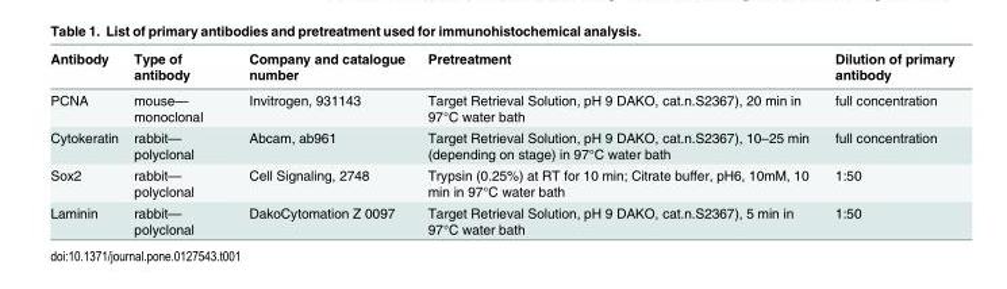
<table><thead><tr><td>Antibody</td><td>Type of antibody</td><td>Company and catalogue number</td><td>Pretreatment</td><td>Dilution of primary antibody</td></tr></thead><tbody><tr><td>PCNA</td><td>mouse— monoclonal</td><td>Invitrogen, 931143</td><td>Target Retrieval Solution, pH 9 DAKO, cat.n.S2367), 20 min in 97°C water bath</td><td>full concentration</td></tr><tr><td>Cytokeratin</td><td>rabbit— polyclonal</td><td>Abcam, ab961</td><td>Target Retrieval Solution, pH 9 DAKO, cat.n.S2367), 10–25 min (depending on stage) in 97°C water bath</td><td>full concentration</td></tr><tr><td>Sox2</td><td>rabbit— polyclonal</td><td>Cell Signaling, 2748</td><td>Trypsin (0.25%) at RT for 10 min; Citrate buffer, pH6, 10mM, 10 min in 97°C water bath</td><td>1:50</td></tr><tr><td>Laminin</td><td>rabbit— polyclonal</td><td>DakoCytomation Z 0097</td><td>Target Retrieval Solution, pH 9 DAKO, cat.n.S2367), 5 min in 97°C water bath</td><td>1:50</td></tr></tbody></table>